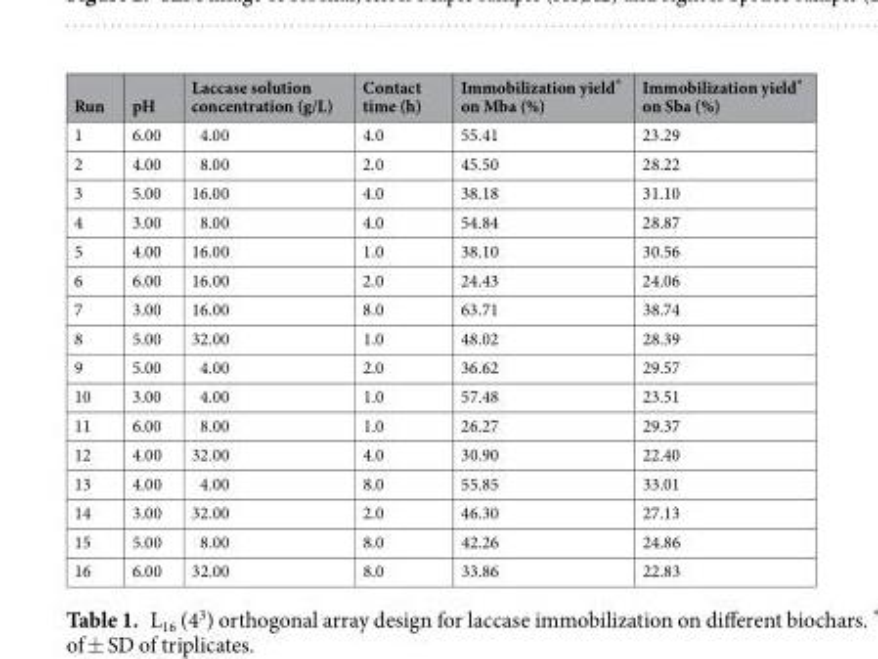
<table><thead><tr><td>Run</td><td>pH</td><td>Laccase solution concentration (g/L)</td><td>Contact time (h)</td><td>Immobilization yield* on Mba (%)</td><td>Immobilization yield* on Sba (%)</td></tr></thead><tbody><tr><td>1</td><td>6.00</td><td>4.00</td><td>4.0</td><td>55.41</td><td>23.29</td></tr><tr><td>2</td><td>4.00</td><td>8.00</td><td>2.0</td><td>45.50</td><td>28.22</td></tr><tr><td>3</td><td>5.00</td><td>16.00</td><td>4.0</td><td>38.18</td><td>31.10</td></tr><tr><td>4</td><td>3.00</td><td>8.00</td><td>4.0</td><td>54.84</td><td>28.87</td></tr><tr><td>5</td><td>4.00</td><td>16.00</td><td>1.0</td><td>38.10</td><td>30.56</td></tr><tr><td>6</td><td>6.00</td><td>16.00</td><td>2.0</td><td>24.43</td><td>24.06</td></tr><tr><td>7</td><td>3.00</td><td>16.00</td><td>8.0</td><td>63.71</td><td>38.74</td></tr><tr><td>8</td><td>5.00</td><td>32.00</td><td>1.0</td><td>48.02</td><td>28.39</td></tr><tr><td>9</td><td>5.00</td><td>4.00</td><td>2.0</td><td>36.62</td><td>29.57</td></tr><tr><td>10</td><td>3.00</td><td>4.00</td><td>1.0</td><td>57.48</td><td>23.51</td></tr><tr><td>11</td><td>6.00</td><td>8.00</td><td>1.0</td><td>26.27</td><td>29.37</td></tr><tr><td>12</td><td>4.00</td><td>32.00</td><td>4.0</td><td>30.90</td><td>22.40</td></tr><tr><td>13</td><td>4.00</td><td>4.00</td><td>8.0</td><td>55.85</td><td>33.01</td></tr><tr><td>14</td><td>3.00</td><td>32.00</td><td>2.0</td><td>46.30</td><td>27.13</td></tr><tr><td>15</td><td>5.00</td><td>8.00</td><td>8.0</td><td>42.26</td><td>24.86</td></tr><tr><td>16</td><td>6.00</td><td>32.00</td><td>8.0</td><td>33.86</td><td>22.83</td></tr></tbody></table>